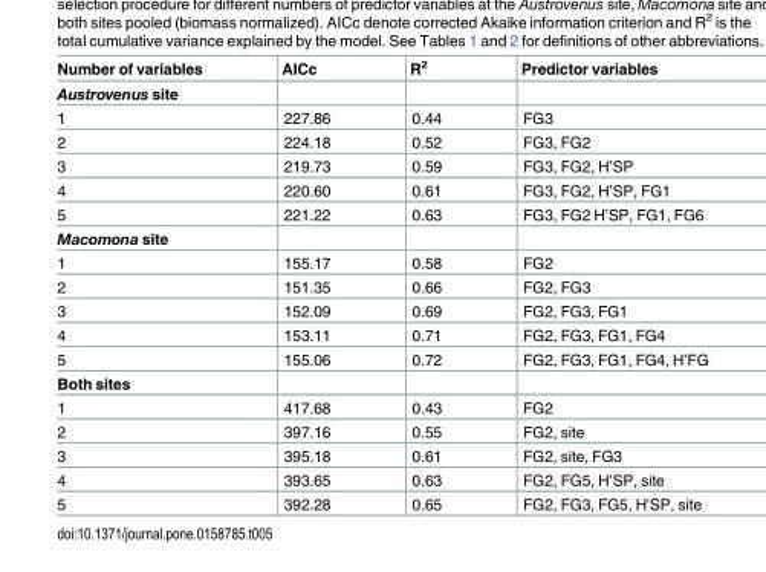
<table><thead><tr><td>Number of variables</td><td>AICc</td><td>R<sup>2</sup></td><td>Predictor variables</td></tr></thead><tbody><tr><td colspan="4">Austrovenus site</td></tr><tr><td>1</td><td>227.86</td><td>0.44</td><td>FG3</td></tr><tr><td>2</td><td>224.18</td><td>0.52</td><td>FG3, FG2</td></tr><tr><td>3</td><td>219.73</td><td>0.59</td><td>FG3, FG2, H’SP</td></tr><tr><td>4</td><td>220.60</td><td>0.61</td><td>FG3, FG2, H’SP, FG1</td></tr><tr><td>5</td><td>221.22</td><td>0.63</td><td>FG3, FG2 H’SP, FG1, FG6</td></tr><tr><td colspan="4">Macomona site</td></tr><tr><td>1</td><td>155.17</td><td>0.58</td><td>FG2</td></tr><tr><td>2</td><td>151.35</td><td>0.66</td><td>FG2, FG3</td></tr><tr><td>3</td><td>152.09</td><td>0.69</td><td>FG2, FG3, FG1</td></tr><tr><td>4</td><td>153.11</td><td>0.71</td><td>FG2, FG3, FG1, FG4</td></tr><tr><td>5</td><td>155.06</td><td>0.72</td><td>FG2, FG3, FG1, FG4, H’FG</td></tr><tr><td colspan="4">Both sites</td></tr><tr><td>1</td><td>417.68</td><td>0.43</td><td>FG2</td></tr><tr><td>2</td><td>397.16</td><td>0.55</td><td>FG2, site</td></tr><tr><td>3</td><td>395.18</td><td>0.61</td><td>FG2, site, FG3</td></tr><tr><td>4</td><td>393.65</td><td>0.63</td><td>FG2, FG5, H’SP, site</td></tr><tr><td>5</td><td>392.28</td><td>0.65</td><td>FG2, FG3, FG5, H’SP, site</td></tr></tbody></table>